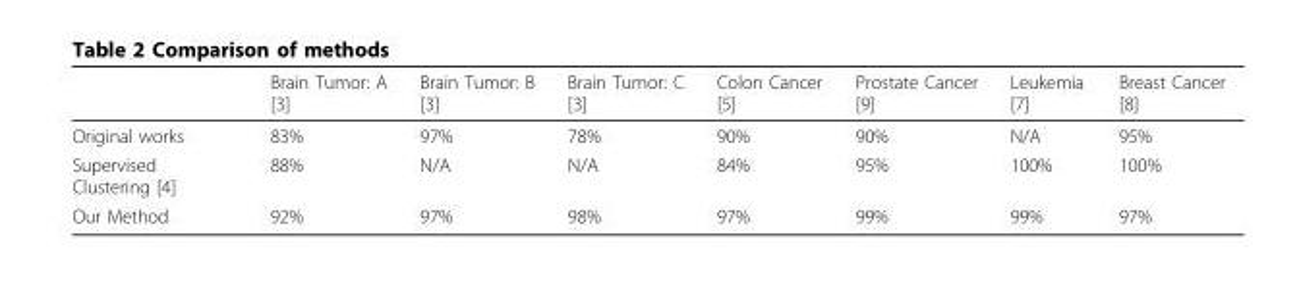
<table><thead><tr><td></td><td>Brain Tumor: A [3]</td><td>Brain Tumor: B [3]</td><td>Brain Tumor: C [3]</td><td>Colon Cancer [5]</td><td>Prostate Cancer [9]</td><td>Leukemia [7]</td><td>Breast Cancer [8]</td></tr></thead><tbody><tr><td>Original works</td><td>83%</td><td>97%</td><td>78%</td><td>90%</td><td>90%</td><td>N/A</td><td>95%</td></tr><tr><td>Supervised Clustering [4]</td><td>88%</td><td>N/A</td><td>N/A</td><td>84%</td><td>95%</td><td>100%</td><td>100%</td></tr><tr><td>Our Method</td><td>92%</td><td>97%</td><td>98%</td><td>97%</td><td>99%</td><td>99%</td><td>97%</td></tr></tbody></table>